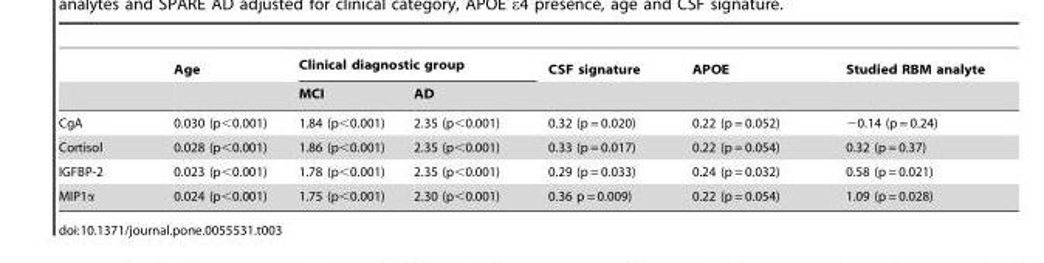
<table><thead><tr><td rowspan="2"></td><td rowspan="2">Age</td><td colspan="2">Clinical diagnostic group</td><td rowspan="2">CSF signature</td><td rowspan="2">APOE</td><td rowspan="2">Studied RBM analyte</td></tr><tr><td>MCI</td><td>AD</td></tr></thead><tbody><tr><td>CgA</td><td>0.030 (p&lt;0.001)</td><td>1.84 (p&lt;0.001)</td><td>2.35 (p&lt;0.001)</td><td>0.32 (p = 0.020)</td><td>0.22 (p = 0.052)</td><td>−0.14 (p = 0.24)</td></tr><tr><td>Cortisol</td><td>0.028 (p&lt;0.001)</td><td>1.86 (p&lt;0.001)</td><td>2.35 (p&lt;0.001)</td><td>0.33 (p = 0.017)</td><td>0.22 (p = 0.054)</td><td>0.32 (p = 0.37)</td></tr><tr><td>IGFBP-2</td><td>0.023 (p&lt;0.001)</td><td>1.78 (p&lt;0.001)</td><td>2.35 (p&lt;0.001)</td><td>0.29 (p = 0.033)</td><td>0.24 (p = 0.032)</td><td>0.58 (p = 0.021)</td></tr><tr><td>MIP1α</td><td>0.024 (p&lt;0.001)</td><td>1.75 (p&lt;0.001)</td><td>2.30 (p&lt;0.001)</td><td>0.36 p = 0.009)</td><td>0.22 (p = 0.054)</td><td>1.09 (p = 0.028)</td></tr></tbody></table>